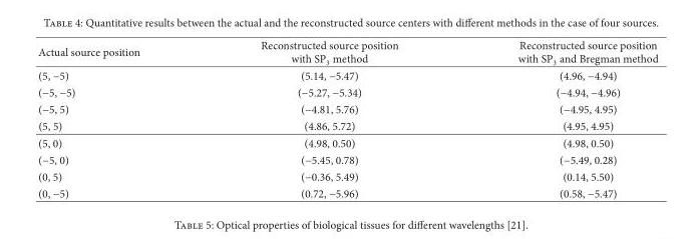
<table><thead><tr><td>Actual source position</td><td>Reconstructed source position with SP<sub>3</sub> method</td><td>Reconstructed source position with SP<sub>3</sub> and Bregman method</td></tr></thead><tbody><tr><td>(5, −5)</td><td>(5.14, −5.47)</td><td>(4.96, −4.94)</td></tr><tr><td>(−5, −5)</td><td>(−5.27, −5.34)</td><td>(−4.94, −4.96)</td></tr><tr><td>(−5, 5)</td><td>(−4.81, 5.76)</td><td>(−4.95, 4.95)</td></tr><tr><td>(5, 5)</td><td>(4.86, 5.72)</td><td>(4.95, 4.95)</td></tr><tr><td>(5, 0)</td><td>(4.98, 0.50)</td><td>(4.98, 0.50)</td></tr><tr><td>(−5, 0)</td><td>(−5.45, 0.78)</td><td>(−5.49, 0.28)</td></tr><tr><td>(0, 5)</td><td>(−0.36, 5.49)</td><td>(0.14, 5.50)</td></tr><tr><td>(0, −5)</td><td>(0.72, −5.96)</td><td>(0.58, −5.47)</td></tr></tbody></table>